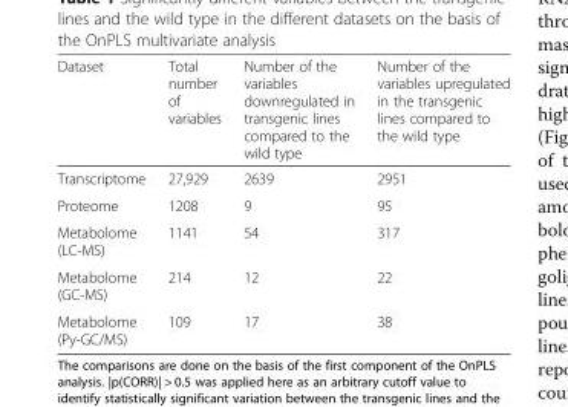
<table><thead><tr><td>Dataset</td><td>Total number of variables</td><td>Number of the variables downregulated in transgenic lines compared to the wild type</td><td>Number of the variables upregulated in the transgenic lines compared to the wild type</td></tr></thead><tbody><tr><td>Transcriptome</td><td>27,929</td><td>2639</td><td>2951</td></tr><tr><td>Proteome</td><td>1208</td><td>9</td><td>95</td></tr><tr><td>Metabolome (LC-MS)</td><td>1141</td><td>54</td><td>317</td></tr><tr><td>Metabolome (GC-MS)</td><td>214</td><td>12</td><td>22</td></tr><tr><td>Metabolome (Py-GC/MS)</td><td>109</td><td>17</td><td>38</td></tr></tbody></table>